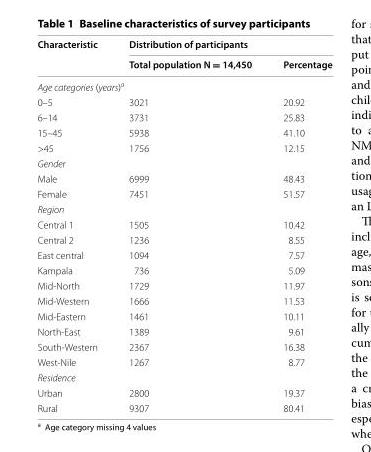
<table><thead><tr><td rowspan="2">Characteristic</td><td colspan="2">Distribution of participants</td></tr><tr><td>Total population N = 14,450</td><td>Percentage</td></tr></thead><tbody><tr><td colspan="3">Age categories (years)<sup>a</sup></td></tr><tr><td>0–5</td><td>3021</td><td>20.92</td></tr><tr><td>6–14</td><td>3731</td><td>25.83</td></tr><tr><td>15–45</td><td>5938</td><td>41.10</td></tr><tr><td>&gt;45</td><td>1756</td><td>12.15</td></tr><tr><td colspan="3">Gender</td></tr><tr><td>Male</td><td>6999</td><td>48.43</td></tr><tr><td>Female</td><td>7451</td><td>51.57</td></tr><tr><td colspan="3">Region</td></tr><tr><td>Central 1</td><td>1505</td><td>10.42</td></tr><tr><td>Central 2</td><td>1236</td><td>8.55</td></tr><tr><td>East central</td><td>1094</td><td>7.57</td></tr><tr><td>Kampala</td><td>736</td><td>5.09</td></tr><tr><td>Mid-North</td><td>1729</td><td>11.97</td></tr><tr><td>Mid-Western</td><td>1666</td><td>11.53</td></tr><tr><td>Mid-Eastern</td><td>1461</td><td>10.11</td></tr><tr><td>North-East</td><td>1389</td><td>9.61</td></tr><tr><td>South-Western</td><td>2367</td><td>16.38</td></tr><tr><td>West-Nile</td><td>1267</td><td>8.77</td></tr><tr><td colspan="3">Residence</td></tr><tr><td>Urban</td><td>2800</td><td>19.37</td></tr><tr><td>Rural</td><td>9307</td><td>80.41</td></tr></tbody></table>